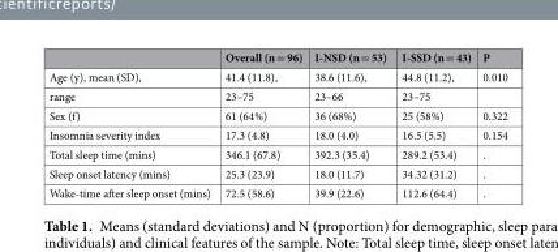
<table><thead><tr><td></td><td>Overall (n = 96)</td><td>I-NSD (n = 53)</td><td>I-SSD (n = 43)</td><td>P</td></tr></thead><tbody><tr><td>Age (y), mean (SD),</td><td>41.4 (11.8),</td><td>38.6 (11.6),</td><td>44.8 (11.2),</td><td>0.010</td></tr><tr><td>range</td><td>23–75</td><td>23–66</td><td>23–75</td><td></td></tr><tr><td>Sex (f)</td><td>61 (64%)</td><td>36 (68%)</td><td>25 (58%)</td><td>0.322</td></tr><tr><td>Insomnia severity index</td><td>17.3 (4.8)</td><td>18.0 (4.0)</td><td>16.5 (5.5)</td><td>0.154</td></tr><tr><td>Total sleep time (mins)</td><td>346.1 (67.8)</td><td>392.3 (35.4)</td><td>289.2 (53.4)</td><td>.</td></tr><tr><td>Sleep onset latency (mins)</td><td>25.3 (23.9)</td><td>18.0 (11.7)</td><td>34.32 (31.2)</td><td>.</td></tr><tr><td>Wake-time after sleep onset (mins)</td><td>72.5 (58.6)</td><td>39.9 (22.6)</td><td>112.6 (64.4)</td><td>.</td></tr></tbody></table>